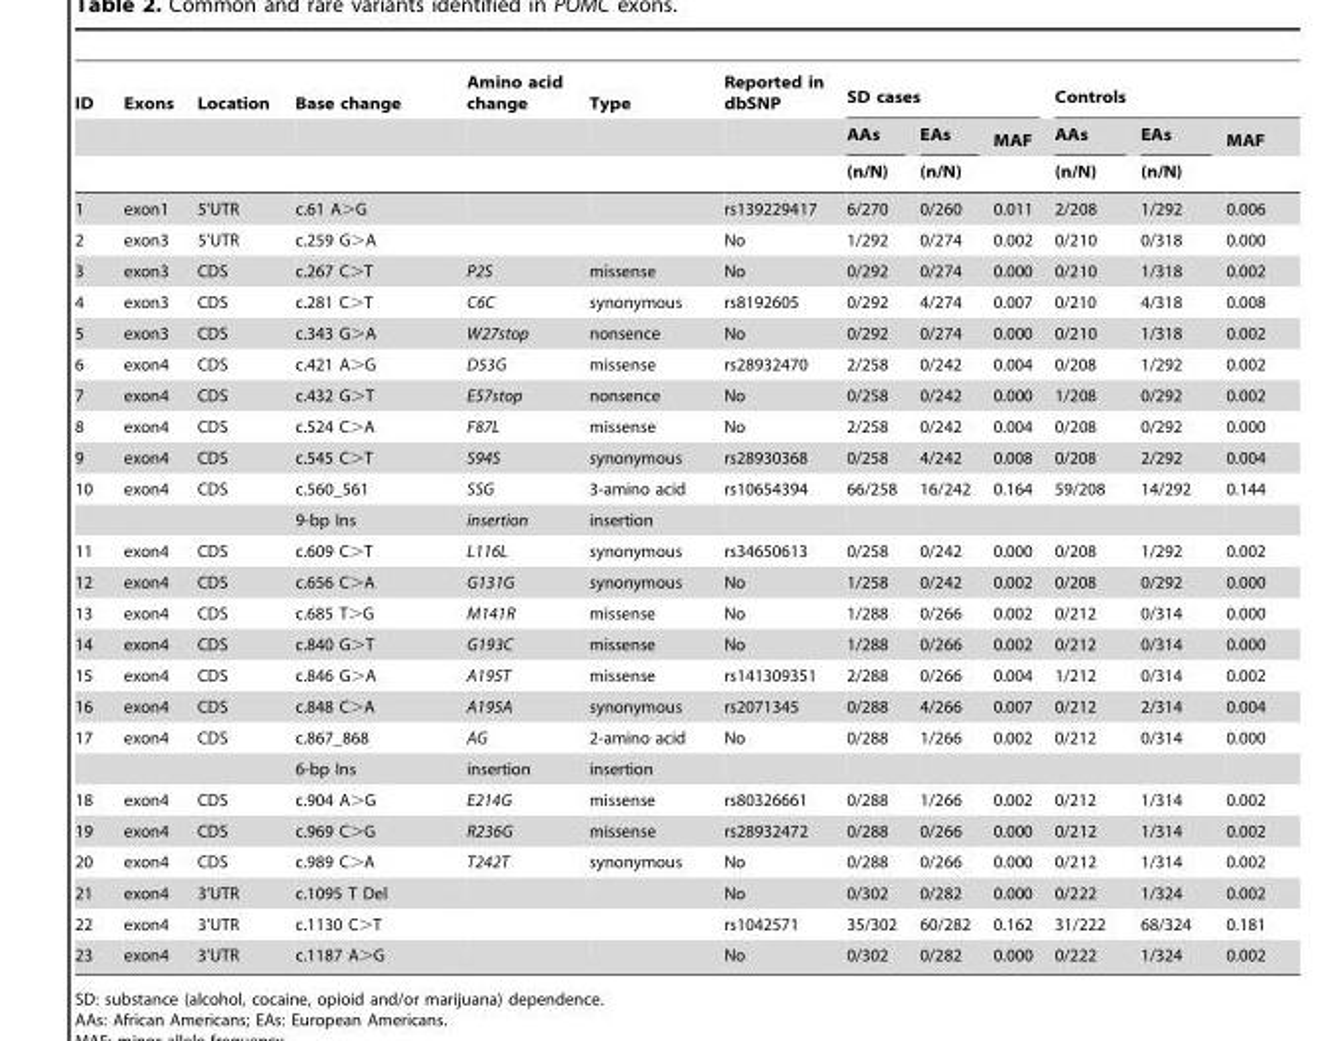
<table><thead><tr><td rowspan="3">ID</td><td rowspan="3">Exons</td><td rowspan="3">Location</td><td rowspan="3">Base change</td><td rowspan="3">Amino acid change</td><td rowspan="3">Type</td><td rowspan="3">Reported in dbSNP</td><td colspan="3">SD cases</td><td colspan="3">Controls</td></tr><tr><td rowspan="2">AAs (n/N)</td><td rowspan="2">EAs (n/N)</td><td rowspan="2">MAF</td><td rowspan="2">AAs (n/N)</td><td rowspan="2">EAs (n/N)</td><td rowspan="2">MAF</td></tr><tr></tr></thead><tbody><tr><td>1</td><td>exon1</td><td>5’UTR</td><td>c.61 A&gt;G</td><td></td><td></td><td>rs139229417</td><td>6/270</td><td>0/260</td><td>0.011</td><td>2/208</td><td>1/292</td><td>0.006</td></tr><tr><td>2</td><td>exon3</td><td>5’UTR</td><td>c.259 G&gt;A</td><td></td><td></td><td>No</td><td>1/292</td><td>0/274</td><td>0.002</td><td>0/210</td><td>0/318</td><td>0.000</td></tr><tr><td>3</td><td>exon3</td><td>CDS</td><td>c.267 C&gt;T</td><td>P2S</td><td>missense</td><td>No</td><td>0/292</td><td>0/274</td><td>0.000</td><td>0/210</td><td>1/318</td><td>0.002</td></tr><tr><td>4</td><td>exon3</td><td>CDS</td><td>c.281 C&gt;T</td><td>C6C</td><td>synonymous</td><td>rs8192605</td><td>0/292</td><td>4/274</td><td>0.007</td><td>0/210</td><td>4/318</td><td>0.008</td></tr><tr><td>5</td><td>exon3</td><td>CDS</td><td>c.343 G&gt;A</td><td>W27stop</td><td>nonsence</td><td>No</td><td>0/292</td><td>0/274</td><td>0.000</td><td>0/210</td><td>1/318</td><td>0.002</td></tr><tr><td>6</td><td>exon4</td><td>CDS</td><td>c.421 A&gt;G</td><td>D53G</td><td>missense</td><td>rs28932470</td><td>2/258</td><td>0/242</td><td>0.004</td><td>0/208</td><td>1/292</td><td>0.002</td></tr><tr><td>7</td><td>exon4</td><td>CDS</td><td>c.432 G&gt;T</td><td>E57stop</td><td>nonsence</td><td>No</td><td>0/258</td><td>0/242</td><td>0.000</td><td>1/208</td><td>0/292</td><td>0.002</td></tr><tr><td>8</td><td>exon4</td><td>CDS</td><td>c.524 C&gt;A</td><td>F87L</td><td>missense</td><td>No</td><td>2/258</td><td>0/242</td><td>0.004</td><td>0/208</td><td>0/292</td><td>0.000</td></tr><tr><td>9</td><td>exon4</td><td>CDS</td><td>c.545 C&gt;T</td><td>S94S</td><td>synonymous</td><td>rs28930368</td><td>0/258</td><td>4/242</td><td>0.008</td><td>0/208</td><td>2/292</td><td>0.004</td></tr><tr><td rowspan="2">10</td><td>exon4</td><td>CDS</td><td>c.560_561</td><td>SSG</td><td>3-amino acid</td><td>rs10654394</td><td>66/258</td><td>16/242</td><td>0.164</td><td>59/208</td><td>14/292</td><td>0.144</td></tr><tr><td></td><td></td><td>9-bp Ins</td><td>insertion</td><td>insertion</td><td></td><td></td><td></td><td></td><td></td><td></td><td></td></tr><tr><td>11</td><td>exon4</td><td>CDS</td><td>c.609 C&gt;T</td><td>L116L</td><td>synonymous</td><td>rs34650613</td><td>0/258</td><td>0/242</td><td>0.000</td><td>0/208</td><td>1/292</td><td>0.002</td></tr><tr><td>12</td><td>exon4</td><td>CDS</td><td>c.656 C&gt;A</td><td>G131G</td><td>synonymous</td><td>No</td><td>1/258</td><td>0/242</td><td>0.002</td><td>0/208</td><td>0/292</td><td>0.000</td></tr><tr><td>13</td><td>exon4</td><td>CDS</td><td>c.685 T&gt;G</td><td>M141R</td><td>missense</td><td>No</td><td>1/288</td><td>0/266</td><td>0.002</td><td>0/212</td><td>0/314</td><td>0.000</td></tr><tr><td>14</td><td>exon4</td><td>CDS</td><td>c.840 G&gt;T</td><td>G193C</td><td>missense</td><td>No</td><td>1/288</td><td>0/266</td><td>0.002</td><td>0/212</td><td>0/314</td><td>0.000</td></tr><tr><td>15</td><td>exon4</td><td>CDS</td><td>c.846 G&gt;A</td><td>A195T</td><td>missense</td><td>rs141309351</td><td>2/288</td><td>0/266</td><td>0.004</td><td>1/212</td><td>0/314</td><td>0.002</td></tr><tr><td>16</td><td>exon4</td><td>CDS</td><td>c.848 C&gt;A</td><td>A195A</td><td>synonymous</td><td>rs2071345</td><td>0/288</td><td>4/266</td><td>0.007</td><td>0/212</td><td>2/314</td><td>0.004</td></tr><tr><td rowspan="2">17</td><td>exon4</td><td>CDS</td><td>c.867_868</td><td>AG</td><td>2-amino acid</td><td>No</td><td>0/288</td><td>1/266</td><td>0.002</td><td>0/212</td><td>0/314</td><td>0.000</td></tr><tr><td></td><td></td><td>6-bp Ins</td><td>insertion</td><td>insertion</td><td></td><td></td><td></td><td></td><td></td><td></td><td></td></tr><tr><td>18</td><td>exon4</td><td>CDS</td><td>c.904 A&gt;G</td><td>E214G</td><td>missense</td><td>rs80326661</td><td>0/288</td><td>1/266</td><td>0.002</td><td>0/212</td><td>1/314</td><td>0.002</td></tr><tr><td>19</td><td>exon4</td><td>CDS</td><td>c.969 C&gt;G</td><td>R236G</td><td>missense</td><td>rs28932472</td><td>0/288</td><td>0/266</td><td>0.000</td><td>0/212</td><td>1/314</td><td>0.002</td></tr><tr><td>20</td><td>exon4</td><td>CDS</td><td>c.989 C&gt;A</td><td>T242T</td><td>synonymous</td><td>No</td><td>0/288</td><td>0/266</td><td>0.000</td><td>0/212</td><td>1/314</td><td>0.002</td></tr><tr><td>21</td><td>exon4</td><td>3’UTR</td><td>c.1095 T Del</td><td></td><td></td><td>No</td><td>0/302</td><td>0/282</td><td>0.000</td><td>0/222</td><td>1/324</td><td>0.002</td></tr><tr><td>22</td><td>exon4</td><td>3’UTR</td><td>c.1130 C&gt;T</td><td></td><td></td><td>rs1042571</td><td>35/302</td><td>60/282</td><td>0.162</td><td>31/222</td><td>68/324</td><td>0.181</td></tr><tr><td>23</td><td>exon4</td><td>3’UTR</td><td>c.1187 A&gt;G</td><td></td><td></td><td>No</td><td>0/302</td><td>0/282</td><td>0.000</td><td>0/222</td><td>1/324</td><td>0.002</td></tr></tbody></table>